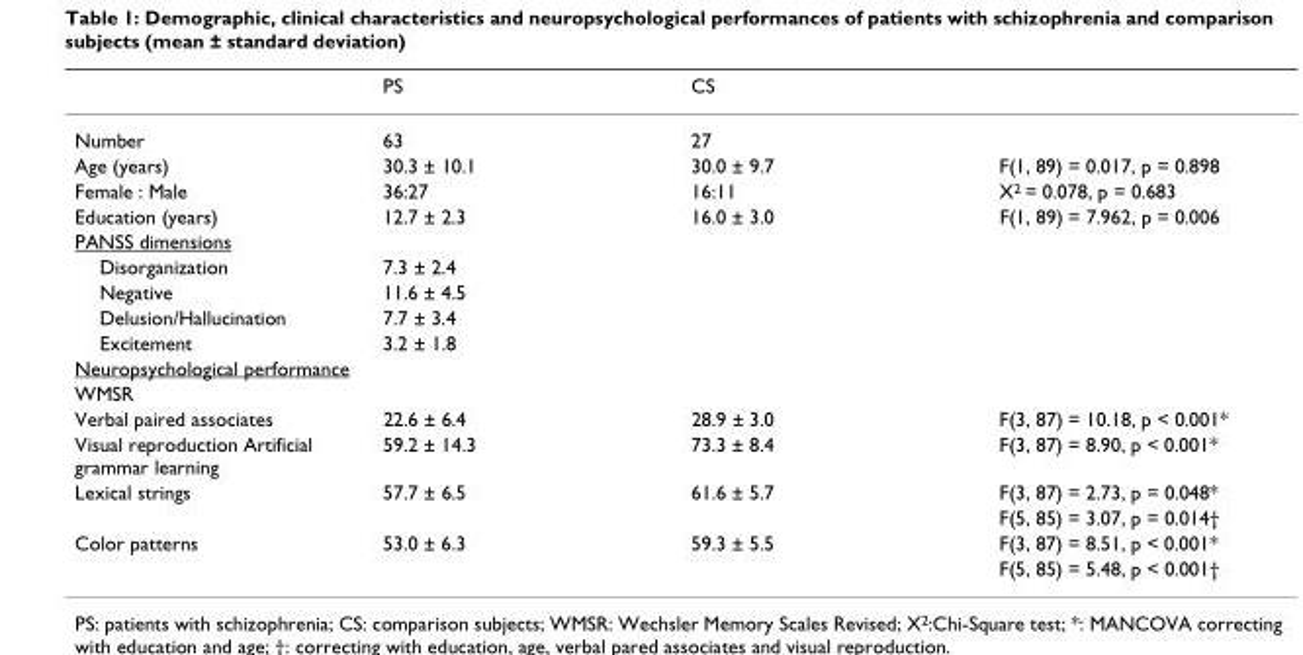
<table><thead><tr><td></td><td>PS</td><td>CS</td><td></td></tr></thead><tbody><tr><td>Number</td><td>63</td><td>27</td><td></td></tr><tr><td>Age (years)</td><td>30.3 ± 10.1</td><td>30.0 ± 9.7</td><td>F(1, 89) = 0.017, p = 0.898</td></tr><tr><td>Female : Male</td><td>36:27</td><td>16:11</td><td>X<sup>2</sup> = 0.078, p = 0.683</td></tr><tr><td>Education (years)</td><td>12.7 ± 2.3</td><td>16.0 ± 3.0</td><td>F(1, 89) = 7.962, p = 0.006</td></tr><tr><td colspan="4">PANSS dimensions</td></tr><tr><td>Disorganization</td><td>7.3 ± 2.4</td><td></td><td></td></tr><tr><td>Negative</td><td>11.6 ± 4.5</td><td></td><td></td></tr><tr><td>Delusion/Hallucination</td><td>7.7 ± 3.4</td><td></td><td></td></tr><tr><td>Excitement</td><td>3.2 ± 1.8</td><td></td><td></td></tr><tr><td colspan="4">Neuropsychological performance</td></tr><tr><td colspan="4">WMSR</td></tr><tr><td>Verbal paired associates</td><td>22.6 ± 6.4</td><td>28.9 ± 3.0</td><td>F(3, 87) = 10.18, p &lt; 0.001*</td></tr><tr><td>Visual reproduction Artificial grammar learning</td><td>59.2 ± 14.3</td><td>73.3 ± 8.4</td><td>F(3, 87) = 8.90, p &lt; 0.001*</td></tr><tr><td rowspan="2">Lexical strings</td><td>57.7 ± 6.5</td><td>61.6 ± 5.7</td><td>F(3, 87) = 2.73, p = 0.048*</td></tr><tr><td></td><td></td><td>F(5, 85) = 3.07, p = 0.014†</td></tr><tr><td rowspan="2">Color patterns</td><td>53.0 ± 6.3</td><td>59.3 ± 5.5</td><td>F(3, 87) = 8.51, p &lt; 0.001*</td></tr><tr><td></td><td></td><td>F(5, 85) = 5.48, p &lt; 0.001†</td></tr></tbody></table>